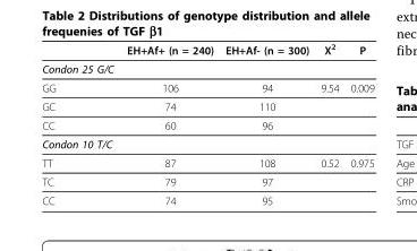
<table><thead><tr><td></td><td>EH+Af+ (n = 240)</td><td>EH+Af- (n = 300)</td><td>X<sup>2</sup></td><td>P</td></tr></thead><tbody><tr><td colspan="5">Condon 25 G/C</td></tr><tr><td>GG</td><td>106</td><td>94</td><td>9.54</td><td>0.009</td></tr><tr><td>GC</td><td>74</td><td>110</td><td></td><td></td></tr><tr><td>CC</td><td>60</td><td>96</td><td></td><td></td></tr><tr><td colspan="5">Condon 10 T/C</td></tr><tr><td>TT</td><td>87</td><td>108</td><td>0.52</td><td>0.975</td></tr><tr><td>TC</td><td>79</td><td>97</td><td></td><td></td></tr><tr><td>CC</td><td>74</td><td>95</td><td></td><td></td></tr></tbody></table>